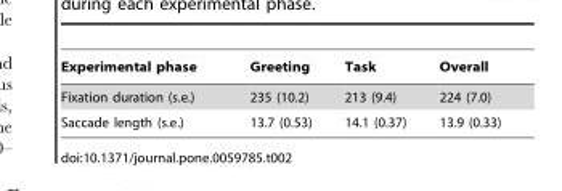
<table><thead><tr><td>Experimental phase</td><td>Greeting</td><td>Task</td><td>Overall</td></tr></thead><tbody><tr><td>Fixation duration (s.e.)</td><td>235 (10.2)</td><td>213 (9.4)</td><td>224 (7.0)</td></tr><tr><td>Saccade length (s.e.)</td><td>13.7 (0.53)</td><td>14.1 (0.37)</td><td>13.9 (0.33)</td></tr></tbody></table>